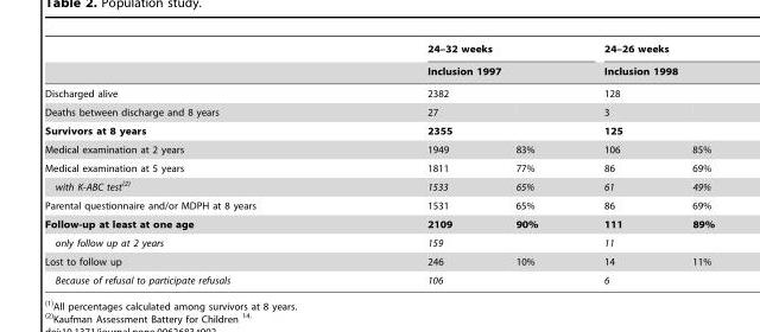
<table><thead><tr><td rowspan="3">Discharged alive</td><td rowspan="2" colspan="2">24–32 weeks Inclusion 1997</td><td rowspan="2" colspan="2">24–26 weeks Inclusion 1998</td></tr><tr></tr><tr><td>2382</td><td></td><td>128</td><td></td></tr></thead><tbody><tr><td>Deaths between discharge and 8 years</td><td>27</td><td></td><td>3</td><td></td></tr><tr><td>Survivors at 8 years</td><td>2355</td><td></td><td>125</td><td></td></tr><tr><td>Medical examination at 2 years</td><td>1949</td><td>83%</td><td>106</td><td>85%</td></tr><tr><td>Medical examination at 5 years</td><td>1811</td><td>77%</td><td>86</td><td>69%</td></tr><tr><td>with K-ABC test(2)</td><td>1533</td><td>65%</td><td>61</td><td>49%</td></tr><tr><td>Parental questionnaire and/or MDPH at 8 years</td><td>1531</td><td>65%</td><td>86</td><td>69%</td></tr><tr><td>Follow-up at least at one age</td><td>2109</td><td>90%</td><td>111</td><td>89%</td></tr><tr><td>only follow up at 2 years</td><td>159</td><td></td><td>11</td><td></td></tr><tr><td>Lost to follow up</td><td>246</td><td>10%</td><td>14</td><td>11%</td></tr><tr><td>Because of refusal to participate refusals</td><td>106</td><td></td><td>6</td><td></td></tr></tbody></table>